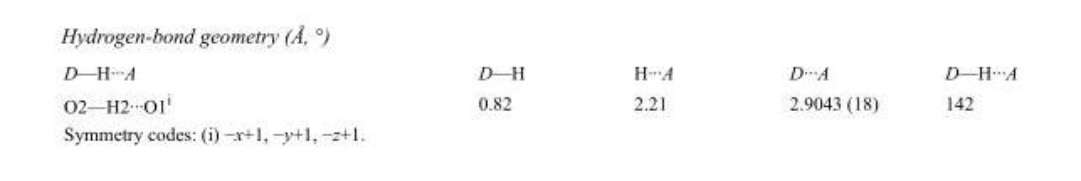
<table><tbody><tr><td>D—H···A</td><td>D—H</td><td>H···A</td><td>D···A</td><td>D—H···A</td></tr><tr><td>O2—H2···O1<sup>i</sup></td><td>0.82</td><td>2.21</td><td>2.9043 (18)</td><td>142</td></tr></tbody></table>